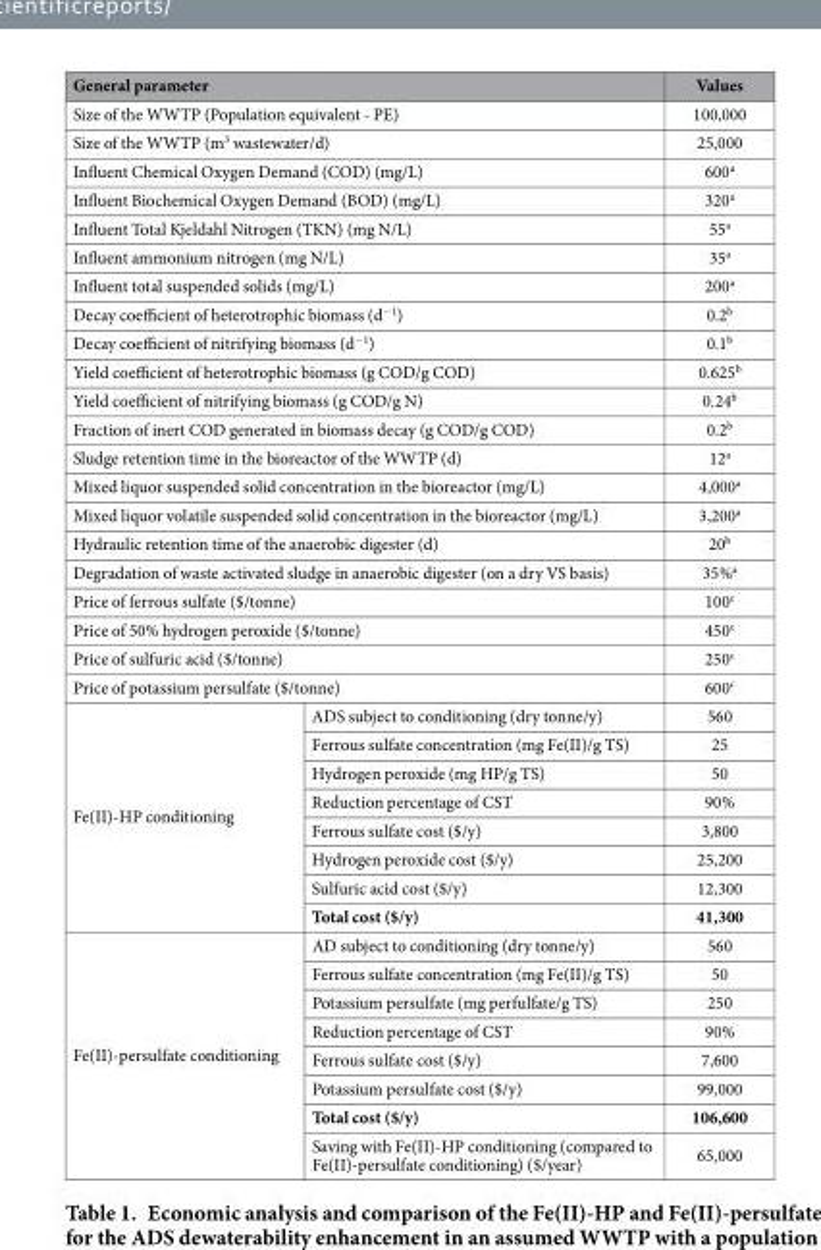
<table><thead><tr><td colspan="2">General parameter</td><td>Values</td></tr></thead><tbody><tr><td colspan="2">Size of the WWTP (Population equivalent - PE)</td><td>100,000</td></tr><tr><td colspan="2">Size of the WWTP (m<sup>3</sup> wastewater/d)</td><td>25,000</td></tr><tr><td colspan="2">Influent Chemical Oxygen Demand (COD) (mg/L)</td><td>600<sup>a</sup></td></tr><tr><td colspan="2">Influent Biochemical Oxygen Demand (BOD) (mg/L)</td><td>320<sup>a</sup></td></tr><tr><td colspan="2">Influent Total Kjeldahl Nitrogen (TKN) (mg N/L)</td><td>55<sup>a</sup></td></tr><tr><td colspan="2">Influent ammonium nitrogen (mg N/L)</td><td>35<sup>a</sup></td></tr><tr><td colspan="2">Influent total suspended solids (mg/L)</td><td>200<sup>a</sup></td></tr><tr><td colspan="2">Decay coefficient of heterotrophic biomass (d<sup>−1</sup>)</td><td>0.2<sup>b</sup></td></tr><tr><td colspan="2">Decay coefficient of nitrifying biomass (d<sup>−1</sup>)</td><td>0.1<sup>b</sup></td></tr><tr><td colspan="2">Yield coefficient of heterotrophic biomass (g COD/g COD)</td><td>0.625<sup>b</sup></td></tr><tr><td colspan="2">Yield coefficient of nitrifying biomass (g COD/g N)</td><td>0.24<sup>b</sup></td></tr><tr><td colspan="2">Fraction of inert COD generated in biomass decay (g COD/g COD)</td><td>0.2<sup>b</sup></td></tr><tr><td colspan="2">Sludge retention time in the bioreactor of the WWTP (d)</td><td>12<sup>a</sup></td></tr><tr><td colspan="2">Mixed liquor suspended solid concentration in the bioreactor (mg/L)</td><td>4,000<sup>a</sup></td></tr><tr><td colspan="2">Mixed liquor volatile suspended solid concentration in the bioreactor (mg/L)</td><td>3,200<sup>a</sup></td></tr><tr><td colspan="2">Hydraulic retention time of the anaerobic digester (d)</td><td>20<sup>b</sup></td></tr><tr><td colspan="2">Degradation of waste activated sludge in anaerobic digester (on a dry VS basis)</td><td>35%<sup>a</sup></td></tr><tr><td colspan="2">Price of ferrous sulfate ($/tonne)</td><td>100<sup>c</sup></td></tr><tr><td colspan="2">Price of 50% hydrogen peroxide ($/tonne)</td><td>450<sup>c</sup></td></tr><tr><td colspan="2">Price of sulfuric acid ($/tonne)</td><td>250<sup>c</sup></td></tr><tr><td colspan="2">Price of potassium persulfate ($/tonne)</td><td>600<sup>c</sup></td></tr><tr><td rowspan="8">Fe(II)-HP conditioning</td><td>ADS subject to conditioning (dry tonne/y)</td><td>560</td></tr><tr><td>Ferrous sulfate concentration (mg Fe(II)/g TS)</td><td>25</td></tr><tr><td>Hydrogen peroxide (mg HP/g TS)</td><td>50</td></tr><tr><td>Reduction percentage of CST</td><td>90%</td></tr><tr><td>Ferrous sulfate cost ($/y)</td><td>3,800</td></tr><tr><td>Hydrogen peroxide cost ($/y)</td><td>25,200</td></tr><tr><td>Sulfuric acid cost ($/y)</td><td>12,300</td></tr><tr><td>Total cost ($/y)</td><td>41,300</td></tr><tr><td rowspan="8">Fe(II)-persulfate conditioning</td><td>AD subject to conditioning (dry tonne/y)</td><td>560</td></tr><tr><td>Ferrous sulfate concentration (mg Fe(II)/g TS)</td><td>50</td></tr><tr><td>Potassium persulfate (mg perfulfate/g TS)</td><td>250</td></tr><tr><td>Reduction percentage of CST</td><td>90%</td></tr><tr><td>Ferrous sulfate cost ($/y)</td><td>7,600</td></tr><tr><td>Potassium persulfate cost ($/y)</td><td>99,000</td></tr><tr><td>Total cost ($/y)</td><td>106,600</td></tr><tr><td>Saving with Fe(II)-HP conditioning (compared to Fe(II)-persulfate conditioning) ($/year)</td><td>65,000</td></tr></tbody></table>